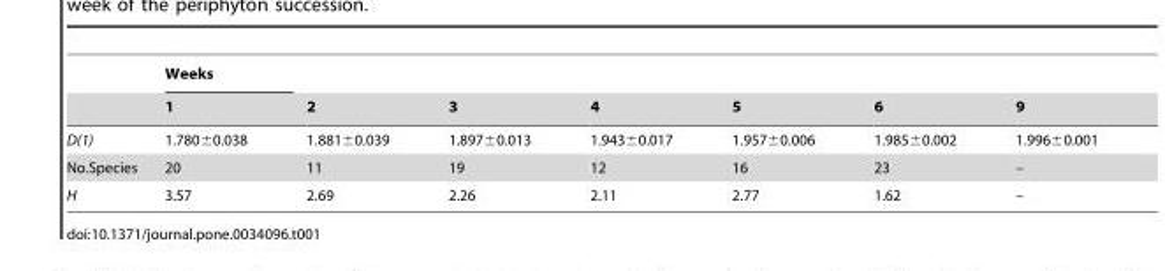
<table><thead><tr><td rowspan="2"></td><td rowspan="2">Weeks 1</td><td rowspan="2">2</td><td rowspan="2">3</td><td rowspan="2">4</td><td rowspan="2">5</td><td rowspan="2">6</td><td rowspan="2">9</td></tr><tr></tr></thead><tbody><tr><td>D(1)</td><td>1.780±0.038</td><td>1.881±0.039</td><td>1.897±0.013</td><td>1.943±0.017</td><td>1.957±0.006</td><td>1.985±0.002</td><td>1.996±0.001</td></tr><tr><td>No.Species</td><td>20</td><td>11</td><td>19</td><td>12</td><td>16</td><td>23</td><td>–</td></tr><tr><td>H</td><td>3.57</td><td>2.69</td><td>2.26</td><td>2.11</td><td>2.77</td><td>1.62</td><td>–</td></tr></tbody></table>